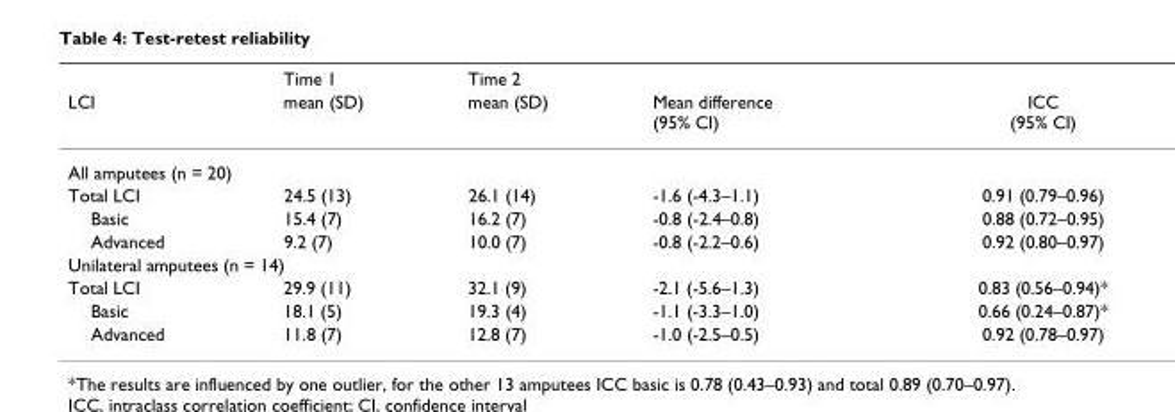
<table><thead><tr><td rowspan="2">LCI</td><td rowspan="2">Time 1 mean (SD)</td><td rowspan="2">Time 2 mean (SD)</td><td rowspan="2">Mean difference (95% CI)</td><td rowspan="2">ICC (95% CI)</td></tr><tr></tr></thead><tbody><tr><td colspan="5">All amputees (n = 20)</td></tr><tr><td>Total LCI</td><td>24.5 (13)</td><td>26.1 (14)</td><td>-1.6 (-4.3–1.1)</td><td>0.91 (0.79–0.96)</td></tr><tr><td>Basic</td><td>15.4 (7)</td><td>16.2 (7)</td><td>-0.8 (-2.4–0.8)</td><td>0.88 (0.72–0.95)</td></tr><tr><td>Advanced</td><td>9.2 (7)</td><td>10.0 (7)</td><td>-0.8 (-2.2–0.6)</td><td>0.92 (0.80–0.97)</td></tr><tr><td colspan="5">Unilateral amputees (n = 14)</td></tr><tr><td>Total LCI</td><td>29.9 (11)</td><td>32.1 (9)</td><td>-2.1 (-5.6–1.3)</td><td>0.83 (0.56–0.94)*</td></tr><tr><td>Basic</td><td>18.1 (5)</td><td>19.3 (4)</td><td>-1.1 (-3.3–1.0)</td><td>0.66 (0.24–0.87)*</td></tr><tr><td>Advanced</td><td>11.8 (7)</td><td>12.8 (7)</td><td>-1.0 (-2.5–0.5)</td><td>0.92 (0.78–0.97)</td></tr></tbody></table>